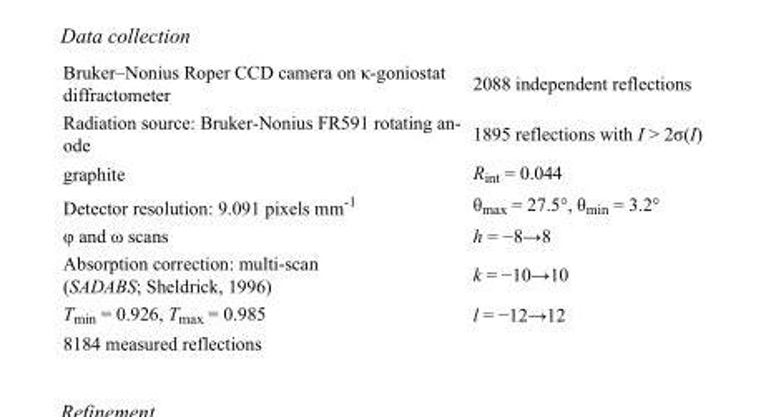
<table><tbody><tr><td>Bruker–Nonius Roper CCD camera on κ-goniostat diffractometer</td><td>2088 independent reflections</td></tr><tr><td>Radiation source: Bruker-Nonius FR591 rotating an- ode</td><td>1895 reflections with I &gt; 2σ(I)</td></tr><tr><td>graphite</td><td>R<sub>int</sub> = 0.044</td></tr><tr><td>Detector resolution: 9.091 pixels mm<sup>-1</sup></td><td>θ<sub>max</sub> = 27.5°, θ<sub>min</sub> = 3.2°</td></tr><tr><td>φ and ω scans</td><td>h = −8→8</td></tr><tr><td>Absorption correction: multi-scan (SADABS; Sheldrick, 1996)</td><td>k = −10→10</td></tr><tr><td>T<sub>min</sub> = 0.926, T<sub>max</sub> = 0.985</td><td>l = −12→12</td></tr><tr><td>8184 measured reflections</td><td></td></tr></tbody></table>